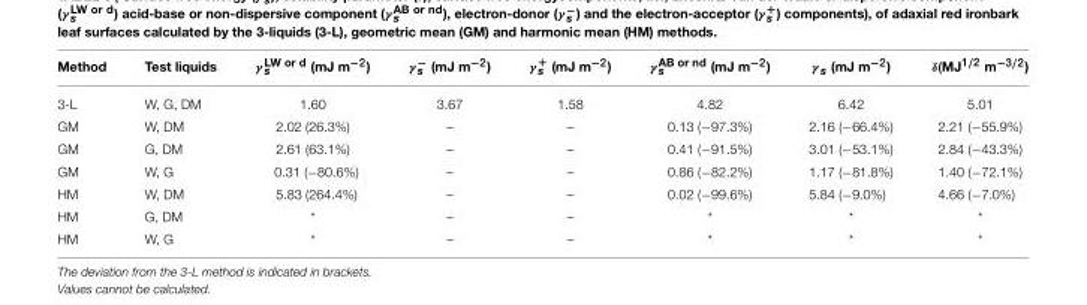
<table><thead><tr><td>Method</td><td>Test liquids</td><td>γ <sup>LW or d</sup> <sub>s</sub> (mJ m<sup>−2</sup>)</td><td>γ <sup>−</sup><sub>s</sub> (mJ m<sup>−2</sup>)</td><td>γ <sup>+</sup> <sub>s</sub> (mJ m<sup>−2</sup>)</td><td>γ <sup>AB or nd</sup> <sub>s</sub> (mJ m<sup>−2</sup>)</td><td>γ <sub>s</sub> (mJ m<sup>−2</sup>)</td><td>δ(MJ<sup>1/2</sup> m<sup>−3/2</sup>)</td></tr></thead><tbody><tr><td>3-L</td><td>W, G, DM</td><td>1.60</td><td>3.67</td><td>1.58</td><td>4.82</td><td>6.42</td><td>5.01</td></tr><tr><td>GM</td><td>W, DM</td><td>2.02 (26.3%)</td><td>–</td><td>–</td><td>0.13 (−97.3%)</td><td>2.16 (−66.4%)</td><td>2.21 (−55.9%)</td></tr><tr><td>GM</td><td>G, DM</td><td>2.61 (63.1%)</td><td>–</td><td>–</td><td>0.41 (−91.5%)</td><td>3.01 (−53.1%)</td><td>2.84 (−43.3%)</td></tr><tr><td>GM</td><td>W, G</td><td>0.31 (−80.6%)</td><td>–</td><td>–</td><td>0.86 (−82.2%)</td><td>1.17 (−81.8%)</td><td>1.40 (−72.1%)</td></tr><tr><td>HM</td><td>W, DM</td><td>5.83 (264.4%)</td><td>–</td><td>–</td><td>0.02 (−99.6%)</td><td>5.84 (−9.0%)</td><td>4.66 (−7.0%)</td></tr><tr><td>HM</td><td>G, DM</td><td>*</td><td>–</td><td>–</td><td>*</td><td>*</td><td>*</td></tr><tr><td>HM</td><td>W, G</td><td>*</td><td>–</td><td>–</td><td>*</td><td>*</td><td>*</td></tr></tbody></table>